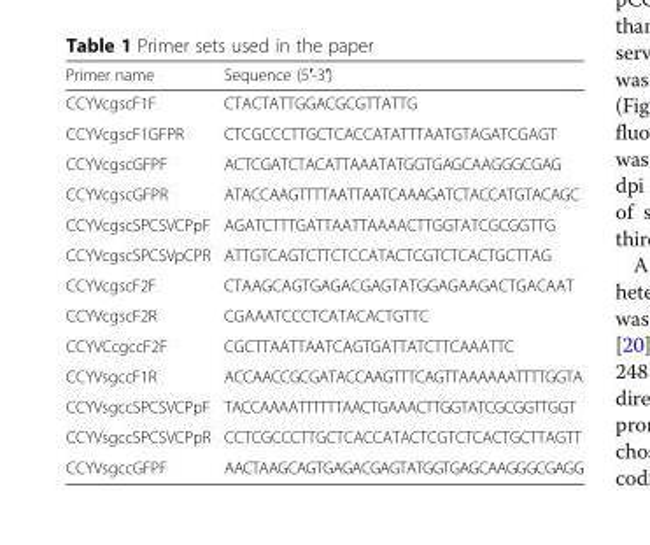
<table><thead><tr><td>Primer name</td><td>Sequence (5′-3′)</td></tr></thead><tbody><tr><td>CCYVcgscF1F</td><td>CTACTATTGGACGCGTTATTG</td></tr><tr><td>CCYVcgscF1GFPR</td><td>CTCGCCCTTGCTCACCATATTTAATGTAGATCGAGT</td></tr><tr><td>CCYVcgscGFPF</td><td>ACTCGATCTACATTAAATATGGTGAGCAAGGGCGAG</td></tr><tr><td>CCYVcgscGFPR</td><td>ATACCAAGTTTTAATTAATCAAAGATCTACCATGTACAGC</td></tr><tr><td>CCYVcgscSPCSVCPpF</td><td>AGATCTTTGATTAATTAAAACTTGGTATCGCGGTTG</td></tr><tr><td>CCYVcgscSPCSVpCPR</td><td>ATTGTCAGTCTTCTCCATACTCGTCTCACTGCTTAG</td></tr><tr><td>CCYVcgscF2F</td><td>CTAAGCAGTGAGACGAGTATGGAGAAGACTGACAAT</td></tr><tr><td>CCYVcgscF2R</td><td>CGAAATCCCTCATACACTGTTC</td></tr><tr><td>CCYVCcgccF2F</td><td>CGCTTAATTAATCAGTGATTATCTTCAAATTC</td></tr><tr><td>CCYVsgccF1R</td><td>ACCAACCGCGATACCAAGTTTCAGTTAAAAAATTTTGGTA</td></tr><tr><td>CCYVsgccSPCSVCPpF</td><td>TACCAAAATTTTTTAACTGAAACTTGGTATCGCGGTTGGT</td></tr><tr><td>CCYVsgccSPCSVCPpR</td><td>CCTCGCCCTTGCTCACCATACTCGTCTCACTGCTTAGTT</td></tr><tr><td>CCYVsgccGFPF</td><td>AACTAAGCAGTGAGACGAGTATGGTGAGCAAGGGCGAGG</td></tr></tbody></table>